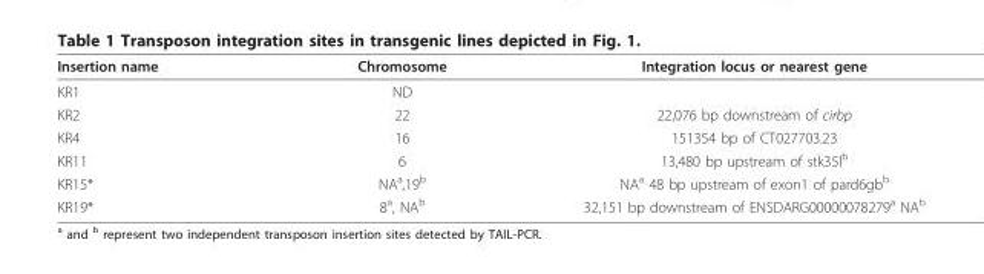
<table><thead><tr><td>Insertion name</td><td>Chromosome</td><td>Integration locus or nearest gene</td></tr></thead><tbody><tr><td>KR1</td><td>ND</td><td></td></tr><tr><td>KR2</td><td>22</td><td>22,076 bp downstream of cirbp</td></tr><tr><td>KR4</td><td>16</td><td>151354 bp of CT027703.23</td></tr><tr><td>KR11</td><td>6</td><td>13,480 bp upstream of stk35l<sup>b</sup></td></tr><tr><td>KR15*</td><td>NA<sup>a</sup>,19<sup>b</sup></td><td>NA<sup>a</sup> 48 bp upstream of exon1 of pard6gb<sup>b</sup></td></tr><tr><td>KR19*</td><td>8<sup>a</sup>, NA<sup>b</sup></td><td>32,151 bp downstream of ENSDARG00000078279<sup>a</sup> NA<sup>b</sup></td></tr></tbody></table>